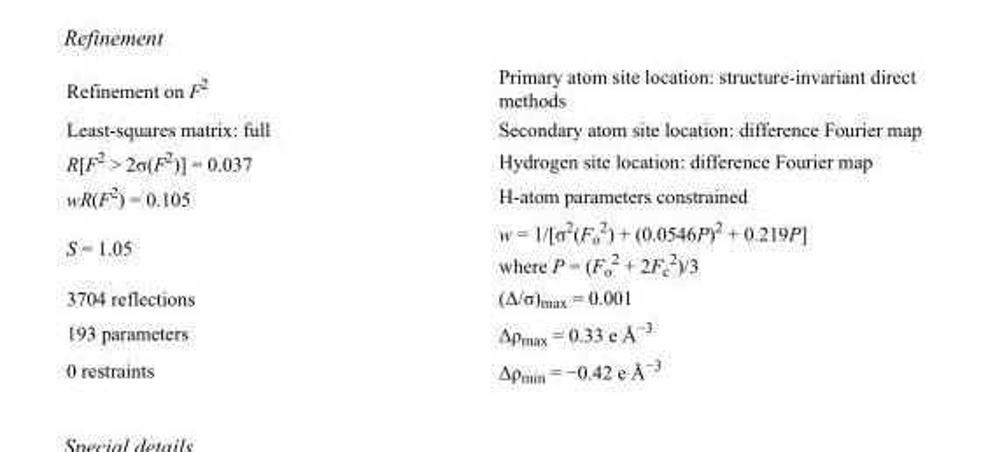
<table><tbody><tr><td>Refinement on F<sup>2</sup></td><td>Primary atom site location: structure-invariant direct methods</td></tr><tr><td>Least-squares matrix: full</td><td>Secondary atom site location: difference Fourier map</td></tr><tr><td>R[F<sup>2</sup> &gt; 2σ(F<sup>2</sup>)] = 0.037</td><td>Hydrogen site location: difference Fourier map</td></tr><tr><td>wR(F<sup>2</sup>) = 0.105</td><td>H-atom parameters constrained</td></tr><tr><td>S = 1.05</td><td>w = 1/[σ<sup>2</sup>(F<sub>o</sub> <sup>2</sup>) + (0.0546P)<sup>2</sup> + 0.219P] where P = (F<sub>o</sub> <sup>2</sup> + 2F<sub>c</sub> <sup>2</sup>)/3</td></tr><tr><td>3704 reflections</td><td>(Δ/σ)<sub>max</sub> = 0.001</td></tr><tr><td>193 parameters</td><td>Δρ<sub>max</sub> = 0.33 e Å<sup>−3</sup></td></tr><tr><td>0 restraints</td><td>Δρ<sub>min</sub> = −0.42 e Å<sup>−3</sup></td></tr></tbody></table>